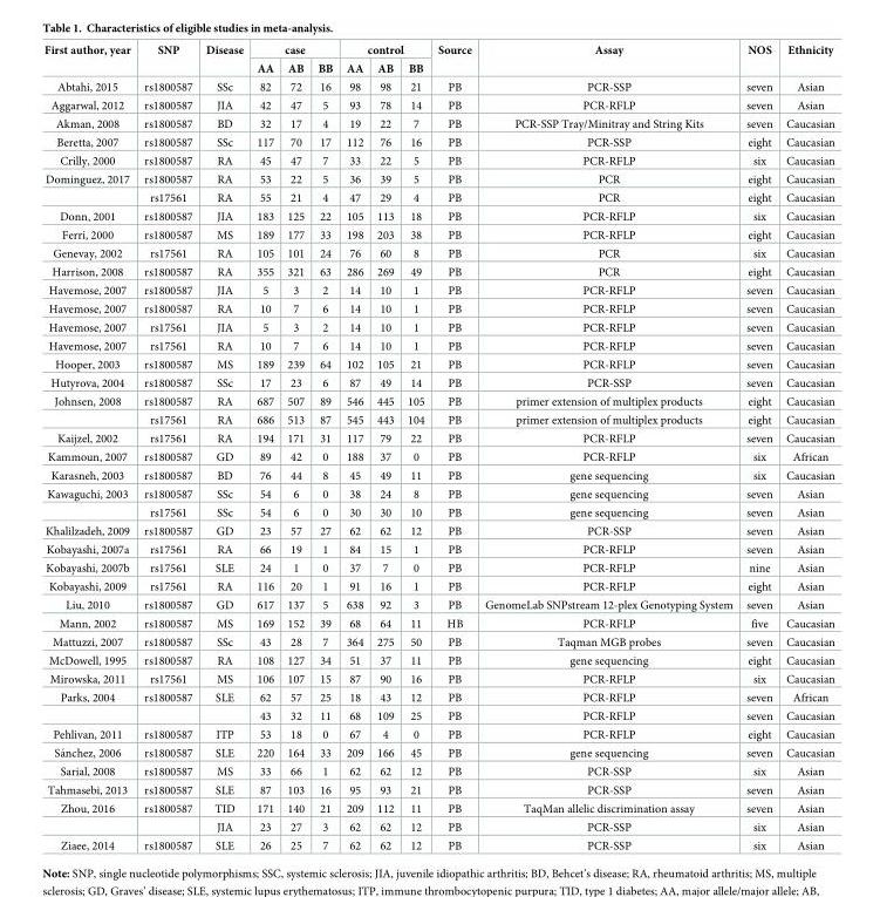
<table><thead><tr><td rowspan="2">First author, year</td><td rowspan="2">SNP</td><td rowspan="2">Disease</td><td colspan="3">case</td><td colspan="3">control</td><td rowspan="2">Source</td><td rowspan="2">Assay</td><td rowspan="2">NOS</td><td rowspan="2">Ethnicity</td></tr><tr><td>AA</td><td>AB</td><td>BB</td><td>AA</td><td>AB</td><td>BB</td></tr></thead><tbody><tr><td>Abtahi, 2015</td><td>rs1800587</td><td>SSc</td><td>82</td><td>72</td><td>16</td><td>98</td><td>98</td><td>21</td><td>PB</td><td>PCR-SSP</td><td>seven</td><td>Asian</td></tr><tr><td>Aggarwal, 2012</td><td>rs1800587</td><td>JIA</td><td>42</td><td>47</td><td>5</td><td>93</td><td>78</td><td>14</td><td>PB</td><td>PCR-RFLP</td><td>seven</td><td>Asian</td></tr><tr><td>Akman, 2008</td><td>rs1800587</td><td>BD</td><td>32</td><td>17</td><td>4</td><td>19</td><td>22</td><td>7</td><td>PB</td><td>PCR-SSP Tray/Minitray and String Kits</td><td>seven</td><td>Caucasian</td></tr><tr><td>Beretta, 2007</td><td>rs1800587</td><td>SSc</td><td>117</td><td>70</td><td>17</td><td>112</td><td>76</td><td>16</td><td>PB</td><td>PCR-SSP</td><td>eight</td><td>Caucasian</td></tr><tr><td>Crilly, 2000</td><td>rs1800587</td><td>RA</td><td>45</td><td>47</td><td>7</td><td>33</td><td>22</td><td>5</td><td>PB</td><td>PCR-RFLP</td><td>six</td><td>Caucasian</td></tr><tr><td rowspan="2">Dominguez, 2017</td><td>rs1800587</td><td>RA</td><td>53</td><td>22</td><td>5</td><td>36</td><td>39</td><td>5</td><td>PB</td><td>PCR</td><td>eight</td><td>Caucasian</td></tr><tr><td>rs17561</td><td>RA</td><td>55</td><td>21</td><td>4</td><td>47</td><td>29</td><td>4</td><td>PB</td><td>PCR</td><td>eight</td><td>Caucasian</td></tr><tr><td>Donn, 2001</td><td>rs1800587</td><td>JIA</td><td>183</td><td>125</td><td>22</td><td>105</td><td>113</td><td>18</td><td>PB</td><td>PCR-RFLP</td><td>six</td><td>Caucasian</td></tr><tr><td>Ferri, 2000</td><td>rs1800587</td><td>MS</td><td>189</td><td>177</td><td>33</td><td>198</td><td>203</td><td>38</td><td>PB</td><td>PCR-RFLP</td><td>eight</td><td>Caucasian</td></tr><tr><td>Genevay, 2002</td><td>rs17561</td><td>RA</td><td>105</td><td>101</td><td>24</td><td>76</td><td>60</td><td>8</td><td>PB</td><td>PCR</td><td>six</td><td>Caucasian</td></tr><tr><td>Harrison, 2008</td><td>rs1800587</td><td>RA</td><td>355</td><td>321</td><td>63</td><td>286</td><td>269</td><td>49</td><td>PB</td><td>PCR</td><td>eight</td><td>Caucasian</td></tr><tr><td>Havemose, 2007</td><td>rs1800587</td><td>JIA</td><td>5</td><td>3</td><td>2</td><td>14</td><td>10</td><td>1</td><td>PB</td><td>PCR-RFLP</td><td>seven</td><td>Caucasian</td></tr><tr><td>Havemose, 2007</td><td>rs1800587</td><td>RA</td><td>10</td><td>7</td><td>6</td><td>14</td><td>10</td><td>1</td><td>PB</td><td>PCR-RFLP</td><td>seven</td><td>Caucasian</td></tr><tr><td>Havemose, 2007</td><td>rs17561</td><td>JIA</td><td>5</td><td>3</td><td>2</td><td>14</td><td>10</td><td>1</td><td>PB</td><td>PCR-RFLP</td><td>seven</td><td>Caucasian</td></tr><tr><td>Havemose, 2007</td><td>rs17561</td><td>RA</td><td>10</td><td>7</td><td>6</td><td>14</td><td>10</td><td>1</td><td>PB</td><td>PCR-RFLP</td><td>seven</td><td>Caucasian</td></tr><tr><td>Hooper, 2003</td><td>rs1800587</td><td>MS</td><td>189</td><td>239</td><td>64</td><td>102</td><td>105</td><td>21</td><td>PB</td><td>PCR-RFLP</td><td>seven</td><td>Caucasian</td></tr><tr><td>Hutyrova, 2004</td><td>rs1800587</td><td>SSc</td><td>17</td><td>23</td><td>6</td><td>87</td><td>49</td><td>14</td><td>PB</td><td>PCR-SSP</td><td>seven</td><td>Caucasian</td></tr><tr><td rowspan="2">Johnsen, 2008</td><td>rs1800587</td><td>RA</td><td>687</td><td>507</td><td>89</td><td>546</td><td>445</td><td>105</td><td>PB</td><td>primer extension of multiplex products</td><td>eight</td><td>Caucasian</td></tr><tr><td>rs17561</td><td>RA</td><td>686</td><td>513</td><td>87</td><td>545</td><td>443</td><td>104</td><td>PB</td><td>primer extension of multiplex products</td><td>eight</td><td>Caucasian</td></tr><tr><td>Kaijzel, 2002</td><td>rs17561</td><td>RA</td><td>194</td><td>171</td><td>31</td><td>117</td><td>79</td><td>22</td><td>PB</td><td>PCR-RFLP</td><td>seven</td><td>Caucasian</td></tr><tr><td>Kammoun, 2007</td><td>rs1800587</td><td>GD</td><td>89</td><td>42</td><td>0</td><td>188</td><td>37</td><td>0</td><td>PB</td><td>PCR-RFLP</td><td>six</td><td>African</td></tr><tr><td>Karasneh, 2003</td><td>rs1800587</td><td>BD</td><td>76</td><td>44</td><td>8</td><td>45</td><td>49</td><td>11</td><td>PB</td><td>gene sequencing</td><td>six</td><td>Caucasian</td></tr><tr><td rowspan="2">Kawaguchi, 2003</td><td>rs1800587</td><td>SSc</td><td>54</td><td>6</td><td>0</td><td>38</td><td>24</td><td>8</td><td>PB</td><td>gene sequencing</td><td>seven</td><td>Asian</td></tr><tr><td>rs17561</td><td>SSc</td><td>54</td><td>6</td><td>0</td><td>30</td><td>30</td><td>10</td><td>PB</td><td>gene sequencing</td><td>seven</td><td>Asian</td></tr><tr><td>Khalilzadeh, 2009</td><td>rs1800587</td><td>GD</td><td>23</td><td>57</td><td>27</td><td>62</td><td>62</td><td>12</td><td>PB</td><td>PCR-SSP</td><td>seven</td><td>Asian</td></tr><tr><td>Kobayashi, 2007a</td><td>rs17561</td><td>RA</td><td>66</td><td>19</td><td>1</td><td>84</td><td>15</td><td>1</td><td>PB</td><td>PCR-RFLP</td><td>seven</td><td>Asian</td></tr><tr><td>Kobayashi, 2007b</td><td>rs17561</td><td>SLE</td><td>24</td><td>1</td><td>0</td><td>37</td><td>7</td><td>0</td><td>PB</td><td>PCR-RFLP</td><td>nine</td><td>Asian</td></tr><tr><td>Kobayashi, 2009</td><td>rs17561</td><td>RA</td><td>116</td><td>20</td><td>1</td><td>91</td><td>16</td><td>1</td><td>PB</td><td>PCR-RFLP</td><td>eight</td><td>Asian</td></tr><tr><td>Liu, 2010</td><td>rs1800587</td><td>GD</td><td>617</td><td>137</td><td>5</td><td>638</td><td>92</td><td>3</td><td>PB</td><td>GenomeLab SNPstream 12-plex Genotyping System</td><td>seven</td><td>Asian</td></tr><tr><td>Mann, 2002</td><td>rs1800587</td><td>MS</td><td>169</td><td>152</td><td>39</td><td>68</td><td>64</td><td>11</td><td>HB</td><td>PCR-RFLP</td><td>five</td><td>Caucasian</td></tr><tr><td>Mattuzzi, 2007</td><td>rs1800587</td><td>SSc</td><td>43</td><td>28</td><td>7</td><td>364</td><td>275</td><td>50</td><td>PB</td><td>Taqman MGB probes</td><td>seven</td><td>Caucasian</td></tr><tr><td>McDowell, 1995</td><td>rs1800587</td><td>RA</td><td>108</td><td>127</td><td>34</td><td>51</td><td>37</td><td>11</td><td>PB</td><td>gene sequencing</td><td>eight</td><td>Caucasian</td></tr><tr><td>Mirowska, 2011</td><td>rs17561</td><td>MS</td><td>106</td><td>107</td><td>15</td><td>87</td><td>90</td><td>16</td><td>PB</td><td>PCR-RFLP</td><td>six</td><td>Caucasian</td></tr><tr><td rowspan="2">Parks, 2004</td><td>rs1800587</td><td>SLE</td><td>62</td><td>57</td><td>25</td><td>18</td><td>43</td><td>12</td><td>PB</td><td>PCR-RFLP</td><td>seven</td><td>African</td></tr><tr><td></td><td></td><td>43</td><td>32</td><td>11</td><td>68</td><td>109</td><td>25</td><td>PB</td><td>PCR-RFLP</td><td>seven</td><td>Caucasian</td></tr><tr><td>Pehlivan, 2011</td><td>rs1800587</td><td>ITP</td><td>53</td><td>18</td><td>0</td><td>67</td><td>4</td><td>0</td><td>PB</td><td>PCR-RFLP</td><td>eight</td><td>Caucasian</td></tr><tr><td>Sa´nchez, 2006</td><td>rs1800587</td><td>SLE</td><td>220</td><td>164</td><td>33</td><td>209</td><td>166</td><td>45</td><td>PB</td><td>gene sequencing</td><td>seven</td><td>Caucasian</td></tr><tr><td>Sarial, 2008</td><td>rs1800587</td><td>MS</td><td>33</td><td>66</td><td>1</td><td>62</td><td>62</td><td>12</td><td>PB</td><td>PCR-SSP</td><td>six</td><td>Asian</td></tr><tr><td>Tahmasebi, 2013</td><td>rs1800587</td><td>SLE</td><td>87</td><td>103</td><td>16</td><td>95</td><td>93</td><td>21</td><td>PB</td><td>PCR-SSP</td><td>seven</td><td>Asian</td></tr><tr><td rowspan="2">Zhou, 2016</td><td>rs1800587</td><td>TID</td><td>171</td><td>140</td><td>21</td><td>209</td><td>112</td><td>11</td><td>PB</td><td>TaqMan allelic discrimination assay</td><td>seven</td><td>Asian</td></tr><tr><td></td><td>JIA</td><td>23</td><td>27</td><td>3</td><td>62</td><td>62</td><td>12</td><td>PB</td><td>PCR-SSP</td><td>six</td><td>Asian</td></tr><tr><td>Ziaee, 2014</td><td>rs1800587</td><td>SLE</td><td>26</td><td>25</td><td>7</td><td>62</td><td>62</td><td>12</td><td>PB</td><td>PCR-SSP</td><td>six</td><td>Asian</td></tr></tbody></table>